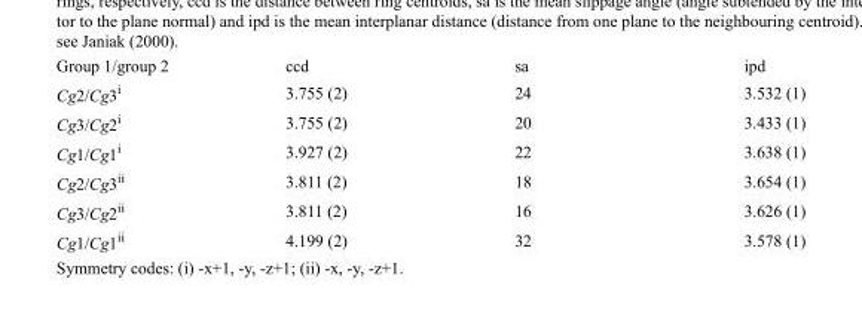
<table><thead><tr><td>Group 1/group 2</td><td>ccd</td><td>sa</td><td>ipd</td></tr></thead><tbody><tr><td>Cg2/Cg3<sup>i</sup></td><td>3.755 (2)</td><td>24</td><td>3.532 (1)</td></tr><tr><td>Cg3/Cg2<sup>i</sup></td><td>3.755 (2)</td><td>20</td><td>3.433 (1)</td></tr><tr><td>Cg1/Cg1<sup>i</sup></td><td>3.927 (2)</td><td>22</td><td>3.638 (1)</td></tr><tr><td>Cg2/Cg3<sup>ii</sup></td><td>3.811 (2)</td><td>18</td><td>3.654 (1)</td></tr><tr><td>Cg3/Cg2<sup>ii</sup></td><td>3.811 (2)</td><td>16</td><td>3.626 (1)</td></tr><tr><td>Cg1/Cg1<sup>ii</sup></td><td>4.199 (2)</td><td>32</td><td>3.578 (1)</td></tr></tbody></table>